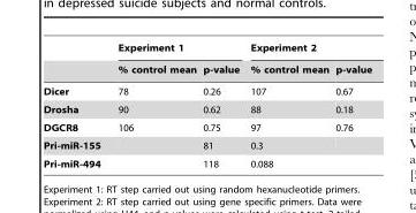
<table><thead><tr><td rowspan="2"></td><td colspan="2">Experiment 1</td><td colspan="2">Experiment 2</td></tr><tr><td>% control mean</td><td>p-value</td><td>% control mean</td><td>p-value</td></tr></thead><tbody><tr><td>Dicer</td><td>78</td><td>0.26</td><td>107</td><td>0.67</td></tr><tr><td>Drosha</td><td>90</td><td>0.62</td><td>88</td><td>0.18</td></tr><tr><td>DGCR8</td><td>106</td><td>0.75</td><td>97</td><td>0.76</td></tr><tr><td>Pri-miR-155</td><td></td><td>81</td><td>0.3</td><td></td></tr><tr><td>Pri-miR-494</td><td></td><td>118</td><td>0.088</td><td></td></tr></tbody></table>